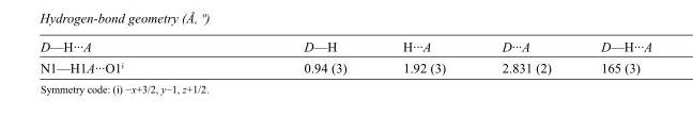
<table><tbody><tr><td>D—H···A</td><td>D—H</td><td>H···A</td><td>D···A</td><td>D—H···A</td></tr><tr><td>N1—H1A···O1<sup>i</sup></td><td>0.94 (3)</td><td>1.92 (3)</td><td>2.831 (2)</td><td>165 (3)</td></tr></tbody></table>